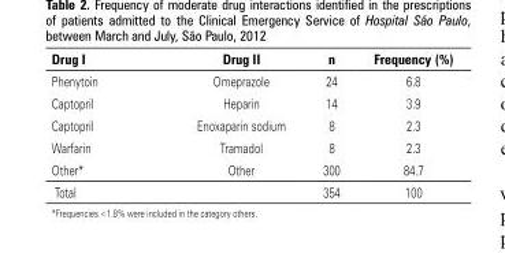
<table><thead><tr><td>Drug I</td><td>Drug II</td><td>n</td><td>Frequency (%)</td></tr></thead><tbody><tr><td>Phenytoin</td><td>Omeprazole</td><td>24</td><td>6.8</td></tr><tr><td>Captopril</td><td>Heparin</td><td>14</td><td>3.9</td></tr><tr><td>Captopril</td><td>Enoxaparin sodium</td><td>8</td><td>2.3</td></tr><tr><td>Warfarin</td><td>Tramadol</td><td>8</td><td>2.3</td></tr><tr><td>Other*</td><td>Other</td><td>300</td><td>84.7</td></tr><tr><td>Total</td><td></td><td>354</td><td>100</td></tr></tbody></table>